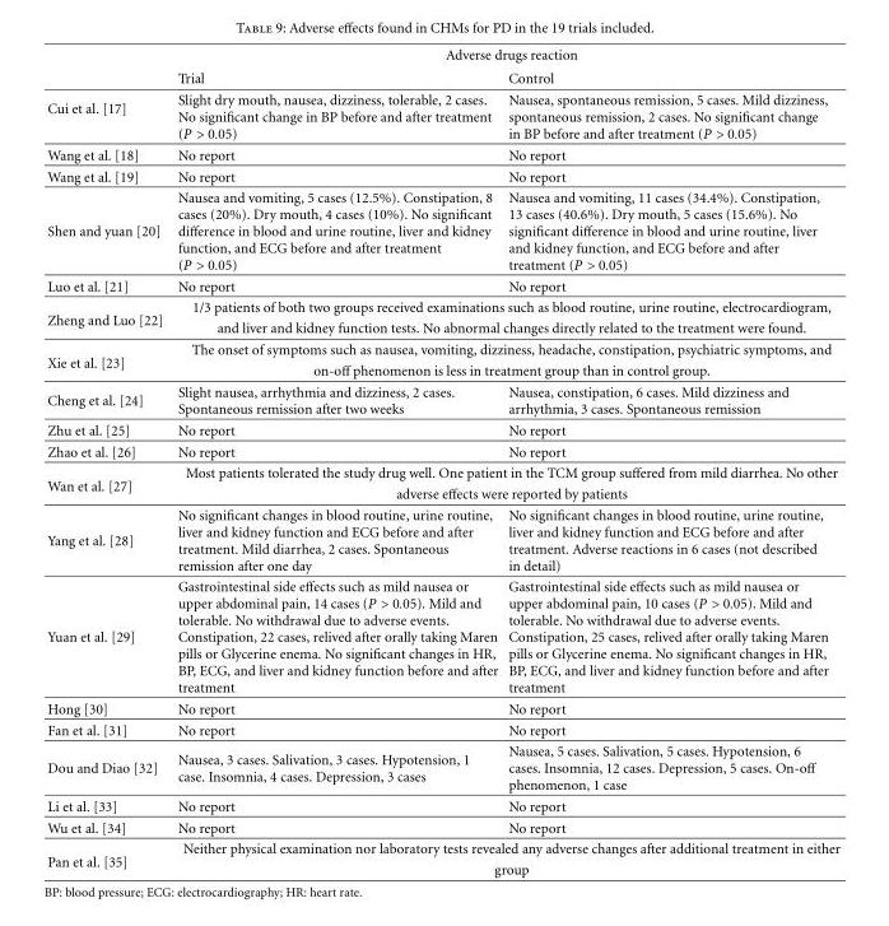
<table><thead><tr><td rowspan="2"></td><td colspan="2">Adverse drugs reaction</td></tr><tr><td>Trial</td><td>Control</td></tr></thead><tbody><tr><td>Cui et al. [17]</td><td>Slight dry mouth, nausea, dizziness, tolerable, 2 cases. No significant change in BP before and after treatment (P &gt; 0.05)</td><td>Nausea, spontaneous remission, 5 cases. Mild dizziness, spontaneous remission, 2 cases. No significant change in BP before and after treatment (P &gt; 0.05)</td></tr><tr><td>Wang et al. [18]</td><td>No report</td><td>No report</td></tr><tr><td>Wang et al. [19]</td><td>No report</td><td>No report</td></tr><tr><td>Shen and yuan [20]</td><td>Nausea and vomiting, 5 cases (12.5%). Constipation, 8 cases (20%). Dry mouth, 4 cases (10%). No significant difference in blood and urine routine, liver and kidney function, and ECG before and after treatment (P &gt; 0.05)</td><td>Nausea and vomiting, 11 cases (34.4%). Constipation, 13 cases (40.6%). Dry mouth, 5 cases (15.6%). No significant difference in blood and urine routine, liver and kidney function, and ECG before and after treatment (P &gt; 0.05)</td></tr><tr><td>Luo et al. [21]</td><td>No report</td><td>No report</td></tr><tr><td rowspan="2">Zheng and Luo [22]</td><td colspan="2">1/3 patients of both two groups received examinations such as blood routine, urine routine, electrocardiogram,</td></tr><tr><td colspan="2">and liver and kidney function tests. No abnormal changes directly related to the treatment were found.</td></tr><tr><td rowspan="2">Xie et al. [23]</td><td colspan="2">The onset of symptoms such as nausea, vomiting, dizziness, headache, constipation, psychiatric symptoms, and</td></tr><tr><td colspan="2">on-off phenomenon is less in treatment group than in control group.</td></tr><tr><td>Cheng et al. [24]</td><td>Slight nausea, arrhythmia and dizziness, 2 cases. Spontaneous remission after two weeks</td><td>Nausea, constipation, 6 cases. Mild dizziness and arrhythmia, 3 cases. Spontaneous remission</td></tr><tr><td>Zhu et al. [25]</td><td>No report</td><td>No report</td></tr><tr><td>Zhao et al. [26]</td><td>No report</td><td>No report</td></tr><tr><td rowspan="2">Wan et al. [27]</td><td colspan="2">Most patients tolerated the study drug well. One patient in the TCM group suffered from mild diarrhea. No other</td></tr><tr><td colspan="2">adverse effects were reported by patients</td></tr><tr><td>Yang et al. [28]</td><td>No significant changes in blood routine, urine routine, liver and kidney function and ECG before and after treatment. Mild diarrhea, 2 cases. Spontaneous remission after one day</td><td>No significant changes in blood routine, urine routine, liver and kidney function and ECG before and after treatment. Adverse reactions in 6 cases (not described in detail)</td></tr><tr><td>Yuan et al. [29]</td><td>Gastrointestinal side effects such as mild nausea or upper abdominal pain, 14 cases (P &gt; 0.05). Mild and tolerable. No withdrawal due to adverse events. Constipation, 22 cases, relived after orally taking Maren pills or Glycerine enema. No significant changes in HR, BP, ECG, and liver and kidney function before and after treatment</td><td>Gastrointestinal side effects such as mild nausea or upper abdominal pain, 10 cases (P &gt; 0.05). Mild and tolerable. No withdrawal due to adverse events. Constipation, 25 cases, relived after orally taking Maren pills or Glycerine enema. No significant changes in HR, BP, ECG, and liver and kidney function before and after treatment</td></tr><tr><td>Hong [30]</td><td>No report</td><td>No report</td></tr><tr><td>Fan et al. [31]</td><td>No report</td><td>No report</td></tr><tr><td>Dou and Diao [32]</td><td>Nausea, 3 cases. Salivation, 3 cases. Hypotension, 1 case. Insomnia, 4 cases. Depression, 3 cases</td><td>Nausea, 5 cases. Salivation, 5 cases. Hypotension, 6 cases. Insomnia, 12 cases. Depression, 5 cases. On-off phenomenon, 1 case</td></tr><tr><td>Li et al. [33]</td><td>No report</td><td>No report</td></tr><tr><td>Wu et al. [34]</td><td>No report</td><td>No report</td></tr><tr><td rowspan="2">Pan et al. [35]</td><td colspan="2">Neither physical examination nor laboratory tests revealed any adverse changes after additional treatment in either</td></tr><tr><td colspan="2">group</td></tr></tbody></table>